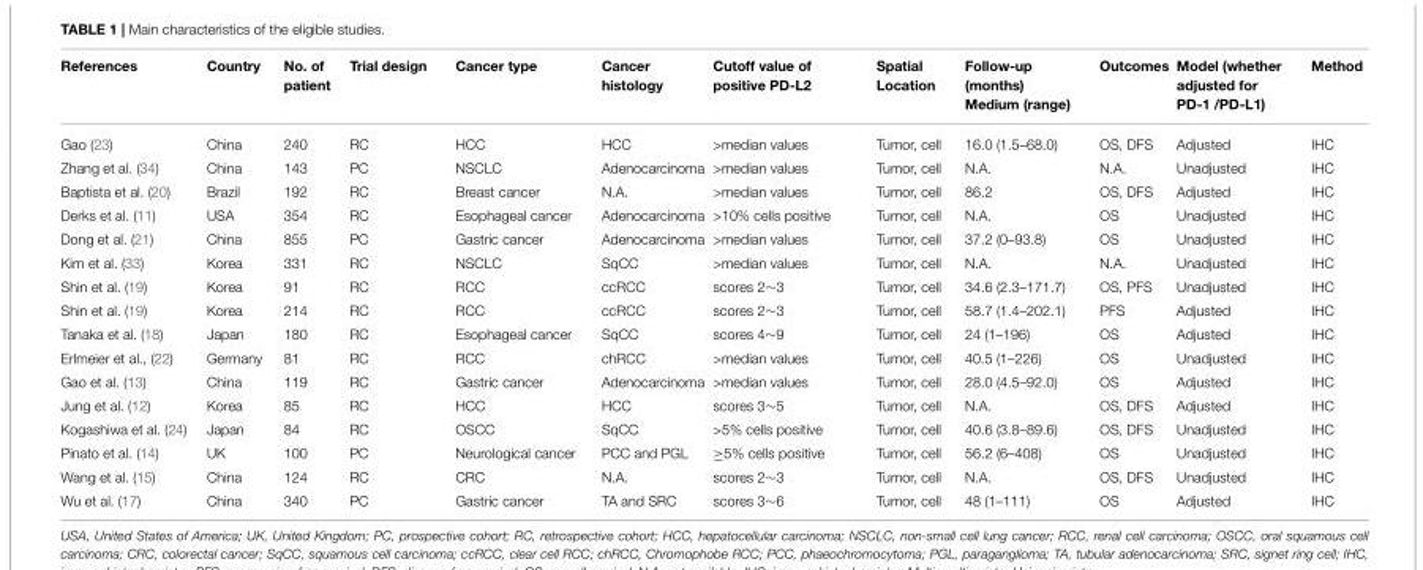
<table><thead><tr><td>References</td><td>Country</td><td>No. of patient</td><td>Trial design</td><td>Cancer type</td><td>Cancer histology</td><td>Cutoff value of positive PD-L2</td><td>Spatial Location</td><td>Follow-up (months) Medium (range)</td><td>Outcomes</td><td>Model (whether adjusted for PD-1 /PD-L1)</td><td>Method</td></tr></thead><tbody><tr><td>Gao (23)</td><td>China</td><td>240</td><td>RC</td><td>HCC</td><td>HCC</td><td>&gt;median values</td><td>Tumor, cell</td><td>16.0 (1.5–68.0)</td><td>OS, DFS</td><td>Adjusted</td><td>IHC</td></tr><tr><td>Zhang et al. (34)</td><td>China</td><td>143</td><td>PC</td><td>NSCLC</td><td>Adenocarcinoma</td><td>&gt;median values</td><td>Tumor, cell</td><td>N.A.</td><td>N.A.</td><td>Unadjusted</td><td>IHC</td></tr><tr><td>Baptista et al. (20)</td><td>Brazil</td><td>192</td><td>RC</td><td>Breast cancer</td><td>N.A.</td><td>&gt;median values</td><td>Tumor, cell</td><td>86.2</td><td>OS, DFS</td><td>Adjusted</td><td>IHC</td></tr><tr><td>Derks et al. (11)</td><td>USA</td><td>354</td><td>RC</td><td>Esophageal cancer</td><td>Adenocarcinoma</td><td>&gt;10% cells positive</td><td>Tumor, cell</td><td>N.A.</td><td>OS</td><td>Unadjusted</td><td>IHC</td></tr><tr><td>Dong et al. (21)</td><td>China</td><td>855</td><td>PC</td><td>Gastric cancer</td><td>Adenocarcinoma</td><td>&gt;median values</td><td>Tumor, cell</td><td>37.2 (0–93.8)</td><td>OS</td><td>Unadjusted</td><td>IHC</td></tr><tr><td>Kim et al. (33)</td><td>Korea</td><td>331</td><td>RC</td><td>NSCLC</td><td>SqCC</td><td>&gt;median values</td><td>Tumor, cell</td><td>N.A.</td><td>N.A.</td><td>Unadjusted</td><td>IHC</td></tr><tr><td>Shin et al. (19)</td><td>Korea</td><td>91</td><td>RC</td><td>RCC</td><td>ccRCC</td><td>scores 2∼3</td><td>Tumor, cell</td><td>34.6 (2.3–171.7)</td><td>OS, PFS</td><td>Unadjusted</td><td>IHC</td></tr><tr><td>Shin et al. (19)</td><td>Korea</td><td>214</td><td>RC</td><td>RCC</td><td>ccRCC</td><td>scores 2∼3</td><td>Tumor, cell</td><td>58.7 (1.4–202.1)</td><td>PFS</td><td>Adjusted</td><td>IHC</td></tr><tr><td>Tanaka et al. (18)</td><td>Japan</td><td>180</td><td>RC</td><td>Esophageal cancer</td><td>SqCC</td><td>scores 4∼9</td><td>Tumor, cell</td><td>24 (1–196)</td><td>OS</td><td>Adjusted</td><td>IHC</td></tr><tr><td>Erlmeier et al., (22)</td><td>Germany</td><td>81</td><td>RC</td><td>RCC</td><td>chRCC</td><td>&gt;median values</td><td>Tumor, cell</td><td>40.5 (1–226)</td><td>OS</td><td>Unadjusted</td><td>IHC</td></tr><tr><td>Gao et al. (13)</td><td>China</td><td>119</td><td>RC</td><td>Gastric cancer</td><td>Adenocarcinoma</td><td>&gt;median values</td><td>Tumor, cell</td><td>28.0 (4.5–92.0)</td><td>OS</td><td>Adjusted</td><td>IHC</td></tr><tr><td>Jung et al. (12)</td><td>Korea</td><td>85</td><td>RC</td><td>HCC</td><td>HCC</td><td>scores 3∼5</td><td>Tumor, cell</td><td>N.A.</td><td>OS, DFS</td><td>Adjusted</td><td>IHC</td></tr><tr><td>Kogashiwa et al. (24)</td><td>Japan</td><td>84</td><td>RC</td><td>OSCC</td><td>SqCC</td><td>&gt;5% cells positive</td><td>Tumor, cell</td><td>40.6 (3.8–89.6)</td><td>OS, DFS</td><td>Unadjusted</td><td>IHC</td></tr><tr><td>Pinato et al. (14)</td><td>UK</td><td>100</td><td>PC</td><td>Neurological cancer</td><td>PCC and PGL</td><td>≥5% cells positive</td><td>Tumor, cell</td><td>56.2 (6–408)</td><td>OS</td><td>Unadjusted</td><td>IHC</td></tr><tr><td>Wang et al. (15)</td><td>China</td><td>124</td><td>RC</td><td>CRC</td><td>N.A.</td><td>scores 2∼3</td><td>Tumor, cell</td><td>N.A.</td><td>OS, DFS</td><td>Unadjusted</td><td>IHC</td></tr><tr><td>Wu et al. (17)</td><td>China</td><td>340</td><td>PC</td><td>Gastric cancer</td><td>TA and SRC</td><td>scores 3∼6</td><td>Tumor, cell</td><td>48 (1–111)</td><td>OS</td><td>Adjusted</td><td>IHC</td></tr></tbody></table>